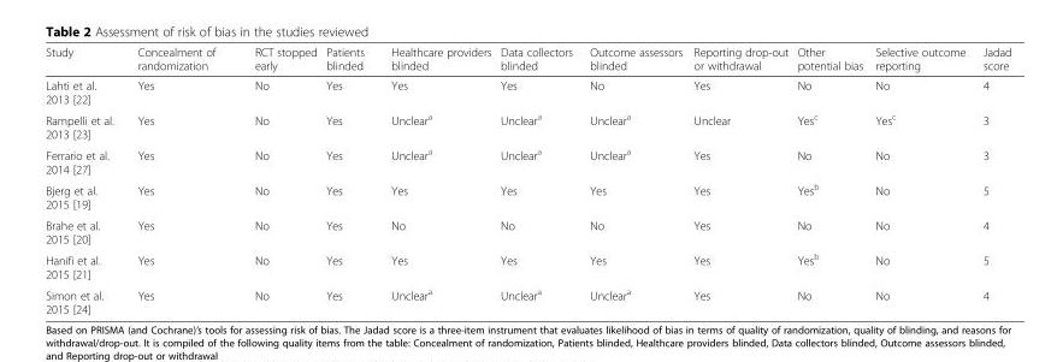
<table><thead><tr><td>Study</td><td>Concealment of randomization</td><td>RCT stopped early</td><td>Patients blinded</td><td>Healthcare providers blinded</td><td>Data collectors blinded</td><td>Outcome assessors blinded</td><td>Reporting drop-out or withdrawal</td><td>Other potential bias</td><td>Selective outcome reporting</td><td>Jadad score</td></tr></thead><tbody><tr><td>Lahti et al. 2013 [22]</td><td>Yes</td><td>No</td><td>Yes</td><td>Yes</td><td>Yes</td><td>No</td><td>Yes</td><td>No</td><td>No</td><td>4</td></tr><tr><td>Rampelli et al. 2013 [23]</td><td>Yes</td><td>No</td><td>Yes</td><td>Unclear<sup>a</sup></td><td>Unclear<sup>a</sup></td><td>Unclear<sup>a</sup></td><td>Unclear</td><td>Yes<sup>c</sup></td><td>Yes<sup>c</sup></td><td>3</td></tr><tr><td>Ferrario et al. 2014 [27]</td><td>Yes</td><td>No</td><td>Yes</td><td>Unclear<sup>a</sup></td><td>Unclear<sup>a</sup></td><td>Unclear<sup>a</sup></td><td>Yes</td><td>No</td><td>No</td><td>3</td></tr><tr><td>Bjerg et al. 2015 [19]</td><td>Yes</td><td>No</td><td>Yes</td><td>Yes</td><td>Yes</td><td>Yes</td><td>Yes</td><td>Yes<sup>b</sup></td><td>No</td><td>5</td></tr><tr><td>Brahe et al. 2015 [20]</td><td>Yes</td><td>No</td><td>Yes</td><td>No</td><td>No</td><td>No</td><td>Yes</td><td>No</td><td>No</td><td>4</td></tr><tr><td>Hanifi et al. 2015 [21]</td><td>Yes</td><td>No</td><td>Yes</td><td>Yes</td><td>Yes</td><td>Yes</td><td>Yes</td><td>Yes<sup>b</sup></td><td>No</td><td>5</td></tr><tr><td>Simon et al. 2015 [24]</td><td>Yes</td><td>No</td><td>Yes</td><td>Unclear<sup>a</sup></td><td>Unclear<sup>a</sup></td><td>Unclear<sup>a</sup></td><td>Yes</td><td>No</td><td>No</td><td>4</td></tr></tbody></table>